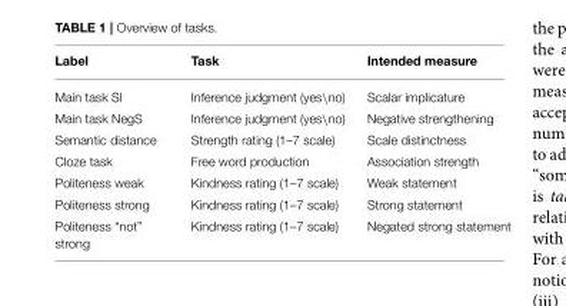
<table><thead><tr><td>Label</td><td>Task</td><td>Intended measure</td></tr></thead><tbody><tr><td>Main task SI</td><td>Inference judgment (yes\no)</td><td>Scalar implicature</td></tr><tr><td>Main task NegS</td><td>Inference judgment (yes\no)</td><td>Negative strengthening</td></tr><tr><td>Semantic distance</td><td>Strength rating (1–7 scale)</td><td>Scale distinctness</td></tr><tr><td>Cloze task</td><td>Free word production</td><td>Association strength</td></tr><tr><td>Politeness weak</td><td>Kindness rating (1–7 scale)</td><td>Weak statement</td></tr><tr><td>Politeness strong</td><td>Kindness rating (1–7 scale)</td><td>Strong statement</td></tr><tr><td>Politeness “not” strong</td><td>Kindness rating (1–7 scale)</td><td>Negated strong statement</td></tr></tbody></table>